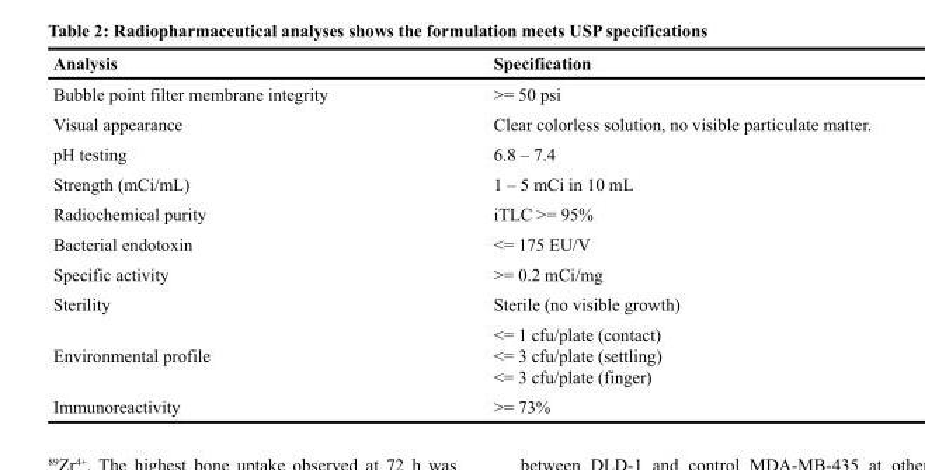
<table><thead><tr><td>Analysis</td><td>Specification</td></tr></thead><tbody><tr><td>Bubble point filter membrane integrity</td><td>&gt;= 50 psi</td></tr><tr><td>Visual appearance</td><td>Clear colorless solution, no visible particulate matter.</td></tr><tr><td>pH testing</td><td>6.8 – 7.4</td></tr><tr><td>Strength (mCi/mL)</td><td>1 – 5 mCi in 10 mL</td></tr><tr><td>Radiochemical purity</td><td>iTLC &gt;= 95%</td></tr><tr><td>Bacterial endotoxin</td><td>&lt;= 175 EU/V</td></tr><tr><td>Specific activity</td><td>&gt;= 0.2 mCi/mg</td></tr><tr><td>Sterility</td><td>Sterile (no visible growth)</td></tr><tr><td rowspan="3">Environmental profile</td><td>&lt;= 1 cfu/plate (contact)</td></tr><tr><td>&lt;= 3 cfu/plate (settling)</td></tr><tr><td>&lt;= 3 cfu/plate (finger)</td></tr><tr><td>Immunoreactivity</td><td>&gt;= 73%</td></tr></tbody></table>